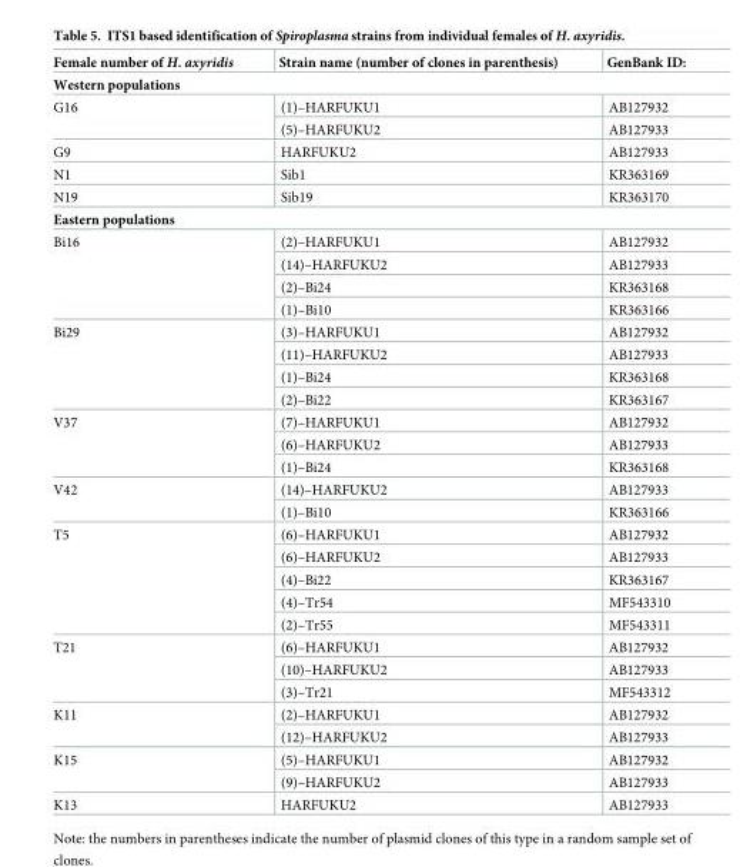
<table><thead><tr><td>Female number of H. axyridis</td><td>Strain name (number of clones in parenthesis)</td><td>GenBank ID:</td></tr></thead><tbody><tr><td colspan="3">Western populations</td></tr><tr><td rowspan="2">G16</td><td>(1)–HARFUKU1</td><td>AB127932</td></tr><tr><td>(5)–HARFUKU2</td><td>AB127933</td></tr><tr><td>G9</td><td>HARFUKU2</td><td>AB127933</td></tr><tr><td>N1</td><td>Sib1</td><td>KR363169</td></tr><tr><td>N19</td><td>Sib19</td><td>KR363170</td></tr><tr><td colspan="3">Eastern populations</td></tr><tr><td rowspan="4">Bi16</td><td>(2)–HARFUKU1</td><td>AB127932</td></tr><tr><td>(14)–HARFUKU2</td><td>AB127933</td></tr><tr><td>(2)–Bi24</td><td>KR363168</td></tr><tr><td>(1)–Bi10</td><td>KR363166</td></tr><tr><td rowspan="4">Bi29</td><td>(3)–HARFUKU1</td><td>AB127932</td></tr><tr><td>(11)–HARFUKU2</td><td>AB127933</td></tr><tr><td>(1)–Bi24</td><td>KR363168</td></tr><tr><td>(2)–Bi22</td><td>KR363167</td></tr><tr><td rowspan="3">V37</td><td>(7)–HARFUKU1</td><td>AB127932</td></tr><tr><td>(6)–HARFUKU2</td><td>AB127933</td></tr><tr><td>(1)–Bi24</td><td>KR363168</td></tr><tr><td rowspan="2">V42</td><td>(14)–HARFUKU2</td><td>AB127933</td></tr><tr><td>(1)–Bi10</td><td>KR363166</td></tr><tr><td rowspan="5">T5</td><td>(6)–HARFUKU1</td><td>AB127932</td></tr><tr><td>(6)–HARFUKU2</td><td>AB127933</td></tr><tr><td>(4)–Bi22</td><td>KR363167</td></tr><tr><td>(4)–Tr54</td><td>MF543310</td></tr><tr><td>(2)–Tr55</td><td>MF543311</td></tr><tr><td rowspan="3">T21</td><td>(6)–HARFUKU1</td><td>AB127932</td></tr><tr><td>(10)–HARFUKU2</td><td>AB127933</td></tr><tr><td>(3)–Tr21</td><td>MF543312</td></tr><tr><td rowspan="2">K11</td><td>(2)–HARFUKU1</td><td>AB127932</td></tr><tr><td>(12)–HARFUKU2</td><td>AB127933</td></tr><tr><td rowspan="2">K15</td><td>(5)–HARFUKU1</td><td>AB127932</td></tr><tr><td>(9)–HARFUKU2</td><td>AB127933</td></tr><tr><td>K13</td><td>HARFUKU2</td><td>AB127933</td></tr></tbody></table>